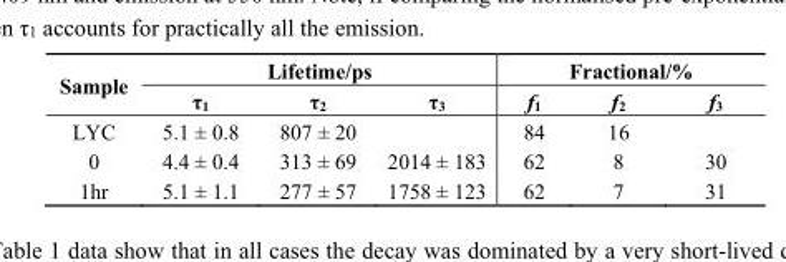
<table><thead><tr><td rowspan="2">Sample</td><td colspan="3">Lifetime/ps</td><td colspan="3">Fractional/%</td></tr><tr><td>τ<sub>1</sub></td><td>τ<sub>2</sub></td><td>τ<sub>3</sub></td><td>f<sub>1</sub></td><td>f<sub>2</sub></td><td>f<sub>3</sub></td></tr></thead><tbody><tr><td>LYC</td><td>5.1 ± 0.8</td><td>807 ± 20</td><td></td><td>84</td><td>16</td><td></td></tr><tr><td>0</td><td>4.4 ± 0.4</td><td>313 ± 69</td><td>2014 ± 183</td><td>62</td><td>8</td><td>30</td></tr><tr><td>1hr</td><td>5.1 ± 1.1</td><td>277 ± 57</td><td>1758 ± 123</td><td>62</td><td>7</td><td>31</td></tr></tbody></table>